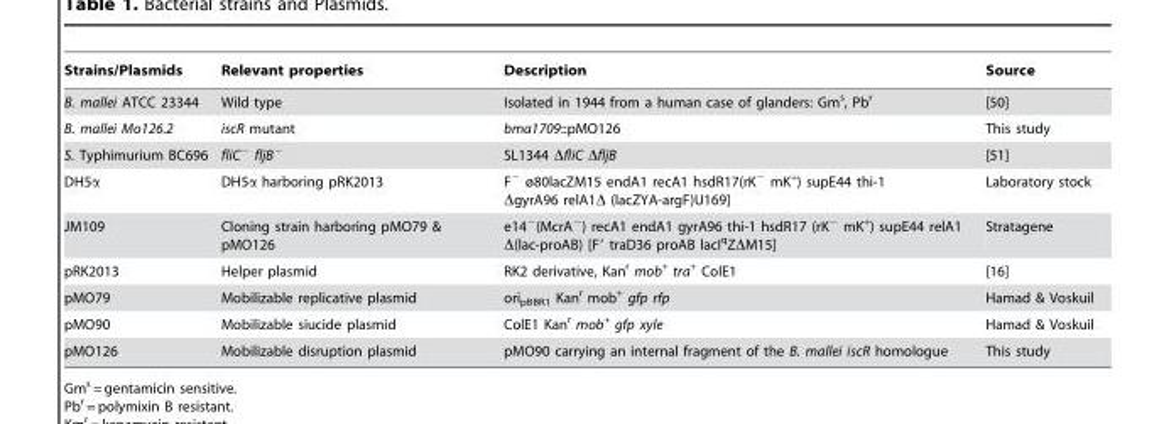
<table><thead><tr><td>Strains/Plasmids</td><td>Relevant properties</td><td>Description</td><td>Source</td></tr></thead><tbody><tr><td>B. mallei ATCC 23344</td><td>Wild type</td><td>Isolated in 1944 from a human case of glanders: Gm<sup>s</sup>, Pb<sup>r</sup></td><td>[50]</td></tr><tr><td>B. mallei Mo126.2</td><td>iscR mutant</td><td>bma1709::pMO126</td><td>This study</td></tr><tr><td>S. Typhimurium BC696</td><td>fliC<sup>−</sup> fljB<sup>−</sup></td><td>SL1344 ΔfliC ΔfljB</td><td>[51]</td></tr><tr><td>DH5α</td><td>DH5α harboring pRK2013</td><td>F<sup>−</sup> ø80lacZM15 endA1 recA1 hsdR17(rK<sup>−</sup> mK<sup>+</sup>) supE44 thi-1 ΔgyrA96 relA1Δ (lacZYA-argF)U169]</td><td>Laboratory stock</td></tr><tr><td>JM109</td><td>Cloning strain harboring pMO79 &amp; pMO126</td><td>e14<sup>−</sup>(McrA<sup>−</sup>) recA1 endA1 gyrA96 thi-1 hsdR17 (rK<sup>−</sup> mK<sup>+</sup>) supE44 relA1 Δ(lac-proAB) [F′ traD36 proAB lacI<sup>q</sup>ZΔM15]</td><td>Stratagene</td></tr><tr><td>pRK2013</td><td>Helper plasmid</td><td>RK2 derivative, Kan<sup>r</sup> mob<sup>+</sup> tra<sup>+</sup> ColE1</td><td>[16]</td></tr><tr><td>pMO79</td><td>Mobilizable replicative plasmid</td><td>ori<sub>pBBR1</sub> Kan<sup>r</sup> mob<sup>+</sup> gfp rfp</td><td>Hamad &amp; Voskuil</td></tr><tr><td>pMO90</td><td>Mobilizable siucide plasmid</td><td>ColE1 Kan<sup>r</sup> mob<sup>+</sup> gfp xyle</td><td>Hamad &amp; Voskuil</td></tr><tr><td>pMO126</td><td>Mobilizable disruption plasmid</td><td>pMO90 carrying an internal fragment of the B. mallei iscR homologue</td><td>This study</td></tr></tbody></table>